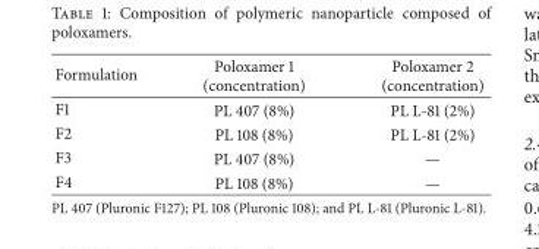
<table><thead><tr><td>Formulation</td><td>Poloxamer 1 (concentration)</td><td>Poloxamer 2 (concentration)</td></tr></thead><tbody><tr><td>F1</td><td>PL 407 (8%)</td><td>PL L-81 (2%)</td></tr><tr><td>F2</td><td>PL 108 (8%)</td><td>PL L-81 (2%)</td></tr><tr><td>F3</td><td>PL 407 (8%)</td><td>—</td></tr><tr><td>F4</td><td>PL 108 (8%)</td><td>—</td></tr></tbody></table>